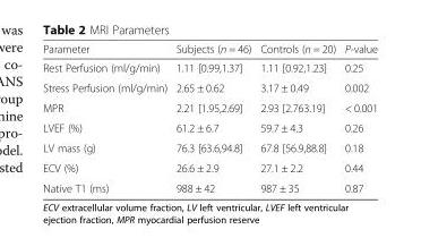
<table><thead><tr><td>Parameter</td><td>Subjects (n = 46)</td><td>Controls (n = 20)</td><td>P-value</td></tr></thead><tbody><tr><td>Rest Perfusion (ml/g/min)</td><td>1.11 [0.99,1.37]</td><td>1.11 [0.92,1.23]</td><td>0.25</td></tr><tr><td>Stress Perfusion (ml/g/min)</td><td>2.65 ± 0.62</td><td>3.17 ± 0.49</td><td>0.002</td></tr><tr><td>MPR</td><td>2.21 [1.95,2.69]</td><td>2.93 [2.763.19]</td><td>&lt; 0.001</td></tr><tr><td>LVEF (%)</td><td>61.2 ± 6.7</td><td>59.7 ± 4.3</td><td>0.26</td></tr><tr><td>LV mass (g)</td><td>76.3 [63.6,94.8]</td><td>67.8 [56.9,88.8]</td><td>0.18</td></tr><tr><td>ECV (%)</td><td>26.6 ± 2.9</td><td>27.1 ± 2.2</td><td>0.44</td></tr><tr><td>Native T1 (ms)</td><td>988 ± 42</td><td>987 ± 35</td><td>0.87</td></tr></tbody></table>